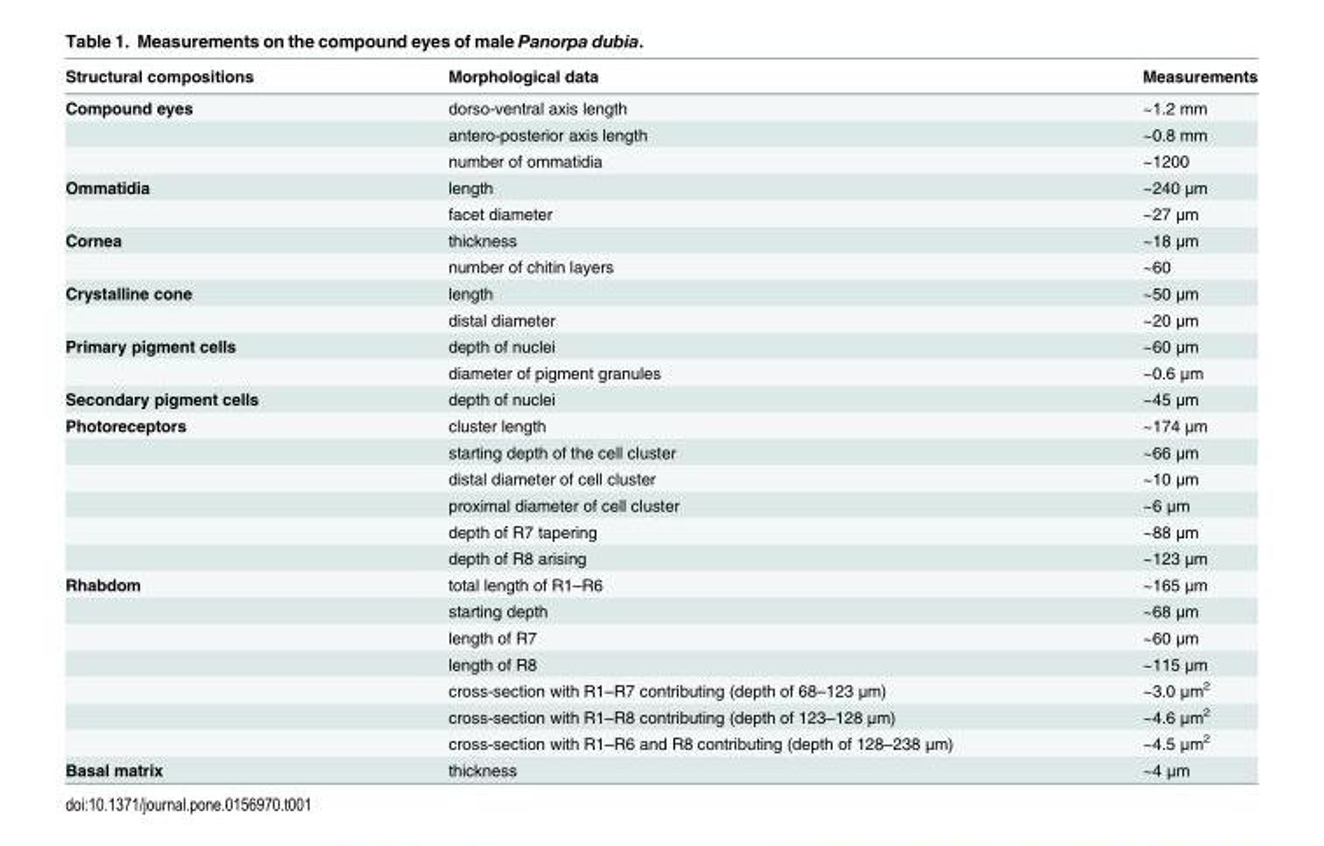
<table><thead><tr><td>Structural compositions</td><td>Morphological data</td><td>Measurements</td></tr></thead><tbody><tr><td rowspan="3">Compound eyes</td><td>dorso-ventral axis length</td><td>~1.2 mm</td></tr><tr><td>antero-posterior axis length</td><td>~0.8 mm</td></tr><tr><td>number of ommatidia</td><td>~1200</td></tr><tr><td rowspan="2">Ommatidia</td><td>length</td><td>~240 μm</td></tr><tr><td>facet diameter</td><td>~27 μm</td></tr><tr><td rowspan="2">Cornea</td><td>thickness</td><td>~18 μm</td></tr><tr><td>number of chitin layers</td><td>~60</td></tr><tr><td rowspan="2">Crystalline cone</td><td>length</td><td>~50 μm</td></tr><tr><td>distal diameter</td><td>~20 μm</td></tr><tr><td rowspan="2">Primary pigment cells</td><td>depth of nuclei</td><td>~60 μm</td></tr><tr><td>diameter of pigment granules</td><td>~0.6 μm</td></tr><tr><td>Secondary pigment cells</td><td>depth of nuclei</td><td>~45 μm</td></tr><tr><td rowspan="6">Photoreceptors</td><td>cluster length</td><td>~174 μm</td></tr><tr><td>starting depth of the cell cluster</td><td>~66 μm</td></tr><tr><td>distal diameter of cell cluster</td><td>~10 μm</td></tr><tr><td>proximal diameter of cell cluster</td><td>~6 μm</td></tr><tr><td>depth of R7 tapering</td><td>~88 μm</td></tr><tr><td>depth of R8 arising</td><td>~123 μm</td></tr><tr><td rowspan="7">Rhabdom</td><td>total length of R1–R6</td><td>~165 μm</td></tr><tr><td>starting depth</td><td>~68 μm</td></tr><tr><td>length of R7</td><td>~60 μm</td></tr><tr><td>length of R8</td><td>~115 μm</td></tr><tr><td>cross-section with R1–R7 contributing (depth of 68–123 μm)</td><td>~3.0 μm<sup>2</sup></td></tr><tr><td>cross-section with R1–R8 contributing (depth of 123–128 μm)</td><td>~4.6 μm<sup>2</sup></td></tr><tr><td>cross-section with R1–R6 and R8 contributing (depth of 128–238 μm)</td><td>~4.5 μm<sup>2</sup></td></tr><tr><td>Basal matrix</td><td>thickness</td><td>~4 μm</td></tr></tbody></table>